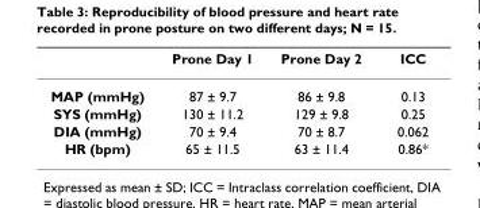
<table><thead><tr><td></td><td>Prone Day 1</td><td>Prone Day 2</td><td>ICC</td></tr></thead><tbody><tr><td>MAP (mmHg)</td><td>87 ± 9.7</td><td>86 ± 9.8</td><td>0.13</td></tr><tr><td>SYS (mmHg)</td><td>130 ± 11.2</td><td>129 ± 9.8</td><td>0.25</td></tr><tr><td>DIA (mmHg)</td><td>70 ± 9.4</td><td>70 ± 8.7</td><td>0.062</td></tr><tr><td>HR (bpm)</td><td>65 ± 11.5</td><td>63 ± 11.4</td><td>0.86*</td></tr></tbody></table>